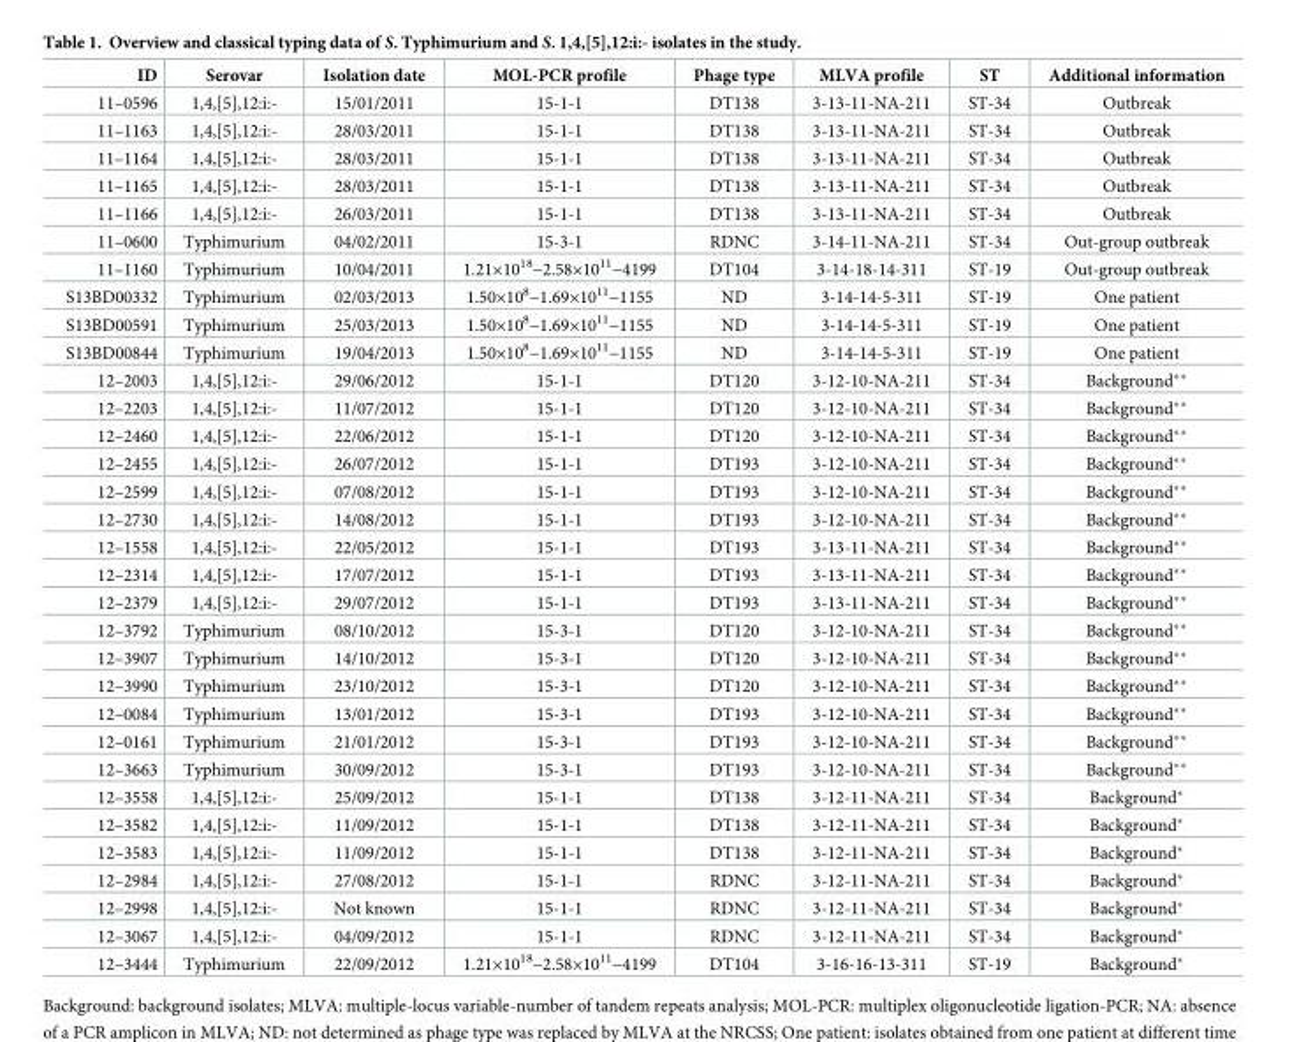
<table><thead><tr><td>ID</td><td>Serovar</td><td>Isolation date</td><td>MOL-PCR profile</td><td>Phage type</td><td>MLVA profile</td><td>ST</td><td>Additional information</td></tr></thead><tbody><tr><td>11–0596</td><td>1,4,[5],12:i:-</td><td>15/01/2011</td><td>15-1-1</td><td>DT138</td><td>3-13-11-NA-211</td><td>ST-34</td><td>Outbreak</td></tr><tr><td>11–1163</td><td>1,4,[5],12:i:-</td><td>28/03/2011</td><td>15-1-1</td><td>DT138</td><td>3-13-11-NA-211</td><td>ST-34</td><td>Outbreak</td></tr><tr><td>11–1164</td><td>1,4,[5],12:i:-</td><td>28/03/2011</td><td>15-1-1</td><td>DT138</td><td>3-13-11-NA-211</td><td>ST-34</td><td>Outbreak</td></tr><tr><td>11–1165</td><td>1,4,[5],12:i:-</td><td>28/03/2011</td><td>15-1-1</td><td>DT138</td><td>3-13-11-NA-211</td><td>ST-34</td><td>Outbreak</td></tr><tr><td>11–1166</td><td>1,4,[5],12:i:-</td><td>26/03/2011</td><td>15-1-1</td><td>DT138</td><td>3-13-11-NA-211</td><td>ST-34</td><td>Outbreak</td></tr><tr><td>11–0600</td><td>Typhimurium</td><td>04/02/2011</td><td>15-3-1</td><td>RDNC</td><td>3-14-11-NA-211</td><td>ST-34</td><td>Out-group outbreak</td></tr><tr><td>11–1160</td><td>Typhimurium</td><td>10/04/2011</td><td>1.21×10<sup>18</sup>−2.58×10<sup>11</sup>−4199</td><td>DT104</td><td>3-14-18-14-311</td><td>ST-19</td><td>Out-group outbreak</td></tr><tr><td>S13BD00332</td><td>Typhimurium</td><td>02/03/2013</td><td>1.50×10<sup>8</sup>−1.69×10<sup>11</sup>−1155</td><td>ND</td><td>3-14-14-5-311</td><td>ST-19</td><td>One patient</td></tr><tr><td>S13BD00591</td><td>Typhimurium</td><td>25/03/2013</td><td>1.50×10<sup>8</sup>−1.69×10<sup>11</sup>−1155</td><td>ND</td><td>3-14-14-5-311</td><td>ST-19</td><td>One patient</td></tr><tr><td>S13BD00844</td><td>Typhimurium</td><td>19/04/2013</td><td>1.50×10<sup>8</sup>−1.69×10<sup>11</sup>−1155</td><td>ND</td><td>3-14-14-5-311</td><td>ST-19</td><td>One patient</td></tr><tr><td>12–2003</td><td>1,4,[5],12:i:-</td><td>29/06/2012</td><td>15-1-1</td><td>DT120</td><td>3-12-10-NA-211</td><td>ST-34</td><td>Background**</td></tr><tr><td>12–2203</td><td>1,4,[5],12:i:-</td><td>11/07/2012</td><td>15-1-1</td><td>DT120</td><td>3-12-10-NA-211</td><td>ST-34</td><td>Background**</td></tr><tr><td>12–2460</td><td>1,4,[5],12:i:-</td><td>22/06/2012</td><td>15-1-1</td><td>DT120</td><td>3-12-10-NA-211</td><td>ST-34</td><td>Background**</td></tr><tr><td>12–2455</td><td>1,4,[5],12:i:-</td><td>26/07/2012</td><td>15-1-1</td><td>DT193</td><td>3-12-10-NA-211</td><td>ST-34</td><td>Background**</td></tr><tr><td>12–2599</td><td>1,4,[5],12:i:-</td><td>07/08/2012</td><td>15-1-1</td><td>DT193</td><td>3-12-10-NA-211</td><td>ST-34</td><td>Background**</td></tr><tr><td>12–2730</td><td>1,4,[5],12:i:-</td><td>14/08/2012</td><td>15-1-1</td><td>DT193</td><td>3-12-10-NA-211</td><td>ST-34</td><td>Background**</td></tr><tr><td>12–1558</td><td>1,4,[5],12:i:-</td><td>22/05/2012</td><td>15-1-1</td><td>DT193</td><td>3-13-11-NA-211</td><td>ST-34</td><td>Background**</td></tr><tr><td>12–2314</td><td>1,4,[5],12:i:-</td><td>17/07/2012</td><td>15-1-1</td><td>DT193</td><td>3-13-11-NA-211</td><td>ST-34</td><td>Background**</td></tr><tr><td>12–2379</td><td>1,4,[5],12:i:-</td><td>29/07/2012</td><td>15-1-1</td><td>DT193</td><td>3-13-11-NA-211</td><td>ST-34</td><td>Background**</td></tr><tr><td>12–3792</td><td>Typhimurium</td><td>08/10/2012</td><td>15-3-1</td><td>DT120</td><td>3-12-10-NA-211</td><td>ST-34</td><td>Background**</td></tr><tr><td>12–3907</td><td>Typhimurium</td><td>14/10/2012</td><td>15-3-1</td><td>DT120</td><td>3-12-10-NA-211</td><td>ST-34</td><td>Background**</td></tr><tr><td>12–3990</td><td>Typhimurium</td><td>23/10/2012</td><td>15-3-1</td><td>DT120</td><td>3-12-10-NA-211</td><td>ST-34</td><td>Background**</td></tr><tr><td>12–0084</td><td>Typhimurium</td><td>13/01/2012</td><td>15-3-1</td><td>DT193</td><td>3-12-10-NA-211</td><td>ST-34</td><td>Background**</td></tr><tr><td>12–0161</td><td>Typhimurium</td><td>21/01/2012</td><td>15-3-1</td><td>DT193</td><td>3-12-10-NA-211</td><td>ST-34</td><td>Background**</td></tr><tr><td>12–3663</td><td>Typhimurium</td><td>30/09/2012</td><td>15-3-1</td><td>DT193</td><td>3-12-10-NA-211</td><td>ST-34</td><td>Background**</td></tr><tr><td>12–3558</td><td>1,4,[5],12:i:-</td><td>25/09/2012</td><td>15-1-1</td><td>DT138</td><td>3-12-11-NA-211</td><td>ST-34</td><td>Background*</td></tr><tr><td>12–3582</td><td>1,4,[5],12:i:-</td><td>11/09/2012</td><td>15-1-1</td><td>DT138</td><td>3-12-11-NA-211</td><td>ST-34</td><td>Background*</td></tr><tr><td>12–3583</td><td>1,4,[5],12:i:-</td><td>11/09/2012</td><td>15-1-1</td><td>DT138</td><td>3-12-11-NA-211</td><td>ST-34</td><td>Background*</td></tr><tr><td>12–2984</td><td>1,4,[5],12:i:-</td><td>27/08/2012</td><td>15-1-1</td><td>RDNC</td><td>3-12-11-NA-211</td><td>ST-34</td><td>Background*</td></tr><tr><td>12–2998</td><td>1,4,[5],12:i:-</td><td>Not known</td><td>15-1-1</td><td>RDNC</td><td>3-12-11-NA-211</td><td>ST-34</td><td>Background*</td></tr><tr><td>12–3067</td><td>1,4,[5],12:i:-</td><td>04/09/2012</td><td>15-1-1</td><td>RDNC</td><td>3-12-11-NA-211</td><td>ST-34</td><td>Background*</td></tr><tr><td>12–3444</td><td>Typhimurium</td><td>22/09/2012</td><td>1.21×10<sup>18</sup>−2.58×10<sup>11</sup>−4199</td><td>DT104</td><td>3-16-16-13-311</td><td>ST-19</td><td>Background*</td></tr></tbody></table>